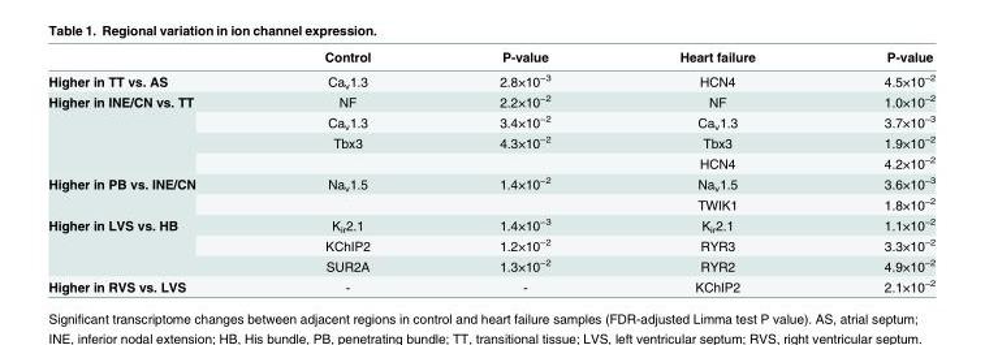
<table><thead><tr><td></td><td>Control</td><td>P-value</td><td>Heart failure</td><td>P-value</td></tr></thead><tbody><tr><td>Higher in TT vs. AS</td><td>Ca<sub>v</sub>1.3</td><td>2.8×10<sup>−3</sup></td><td>HCN4</td><td>4.5×10<sup>−2</sup></td></tr><tr><td rowspan="4">Higher in INE/CN vs. TT</td><td>NF</td><td>2.2×10<sup>−2</sup></td><td>NF</td><td>1.0×10<sup>−2</sup></td></tr><tr><td>Ca<sub>v</sub>1.3</td><td>3.4×10<sup>−2</sup></td><td>Ca<sub>v</sub>1.3</td><td>3.7×10<sup>−3</sup></td></tr><tr><td>Tbx3</td><td>4.3×10<sup>−2</sup></td><td>Tbx3</td><td>1.9×10<sup>−2</sup></td></tr><tr><td></td><td></td><td>HCN4</td><td>4.2×10<sup>−2</sup></td></tr><tr><td rowspan="2">Higher in PB vs. INE/CN</td><td>Na<sub>v</sub>1.5</td><td>1.4×10<sup>−2</sup></td><td>Na<sub>v</sub>1.5</td><td>3.6×10<sup>−3</sup></td></tr><tr><td></td><td></td><td>TWIK1</td><td>1.8×10<sup>−2</sup></td></tr><tr><td rowspan="3">Higher in LVS vs. HB</td><td>K<sub>ir</sub>2.1</td><td>1.4×10<sup>−3</sup></td><td>K<sub>ir</sub>2.1</td><td>1.1×10<sup>−2</sup></td></tr><tr><td>KChIP2</td><td>1.2×10<sup>−2</sup></td><td>RYR3</td><td>3.3×10<sup>−2</sup></td></tr><tr><td>SUR2A</td><td>1.3×10<sup>−2</sup></td><td>RYR2</td><td>4.9×10<sup>−2</sup></td></tr><tr><td>Higher in RVS vs. LVS</td><td>-</td><td>-</td><td>KChIP2</td><td>2.1×10<sup>−2</sup></td></tr></tbody></table>